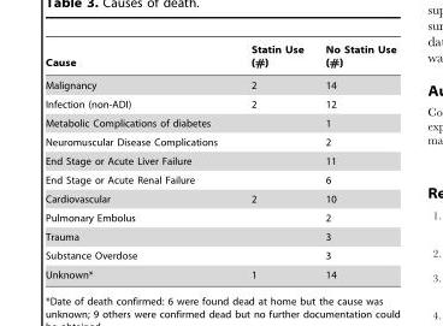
<table><thead><tr><td>Cause</td><td>Statin Use (#)</td><td>No Statin Use (#)</td></tr></thead><tbody><tr><td>Malignancy</td><td>2</td><td>14</td></tr><tr><td>Infection (non-ADI)</td><td>2</td><td>12</td></tr><tr><td>Metabolic Complications of diabetes</td><td></td><td>1</td></tr><tr><td>Neuromuscular Disease Complications</td><td></td><td>2</td></tr><tr><td>End Stage or Acute Liver Failure</td><td></td><td>11</td></tr><tr><td>End Stage or Acute Renal Failure</td><td></td><td>6</td></tr><tr><td>Cardiovascular</td><td>2</td><td>10</td></tr><tr><td>Pulmonary Embolus</td><td></td><td>2</td></tr><tr><td>Trauma</td><td></td><td>3</td></tr><tr><td>Substance Overdose</td><td></td><td>3</td></tr><tr><td>Unknown*</td><td>1</td><td>14</td></tr></tbody></table>